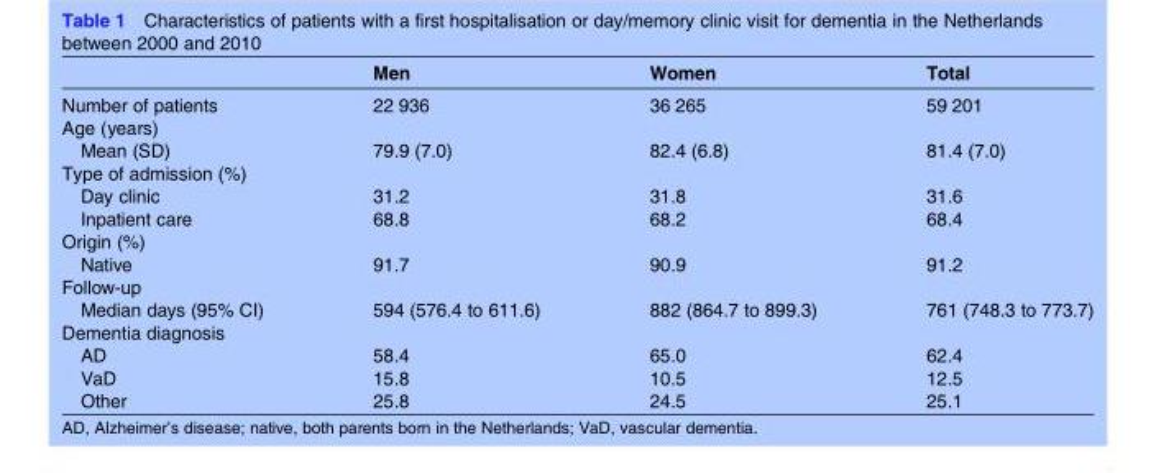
<table><thead><tr><td></td><td>Men</td><td>Women</td><td>Total</td></tr></thead><tbody><tr><td>Number of patients</td><td>22 936</td><td>36 265</td><td>59 201</td></tr><tr><td colspan="4">Age (years)</td></tr><tr><td>Mean (SD)</td><td>79.9 (7.0)</td><td>82.4 (6.8)</td><td>81.4 (7.0)</td></tr><tr><td colspan="4">Type of admission (%)</td></tr><tr><td>Day clinic</td><td>31.2</td><td>31.8</td><td>31.6</td></tr><tr><td>Inpatient care</td><td>68.8</td><td>68.2</td><td>68.4</td></tr><tr><td colspan="4">Origin (%)</td></tr><tr><td>Native</td><td>91.7</td><td>90.9</td><td>91.2</td></tr><tr><td colspan="4">Follow-up</td></tr><tr><td>Median days (95% CI)</td><td>594 (576.4 to 611.6)</td><td>882 (864.7 to 899.3)</td><td>761 (748.3 to 773.7)</td></tr><tr><td colspan="4">Dementia diagnosis</td></tr><tr><td>AD</td><td>58.4</td><td>65.0</td><td>62.4</td></tr><tr><td>VaD</td><td>15.8</td><td>10.5</td><td>12.5</td></tr><tr><td>Other</td><td>25.8</td><td>24.5</td><td>25.1</td></tr></tbody></table>